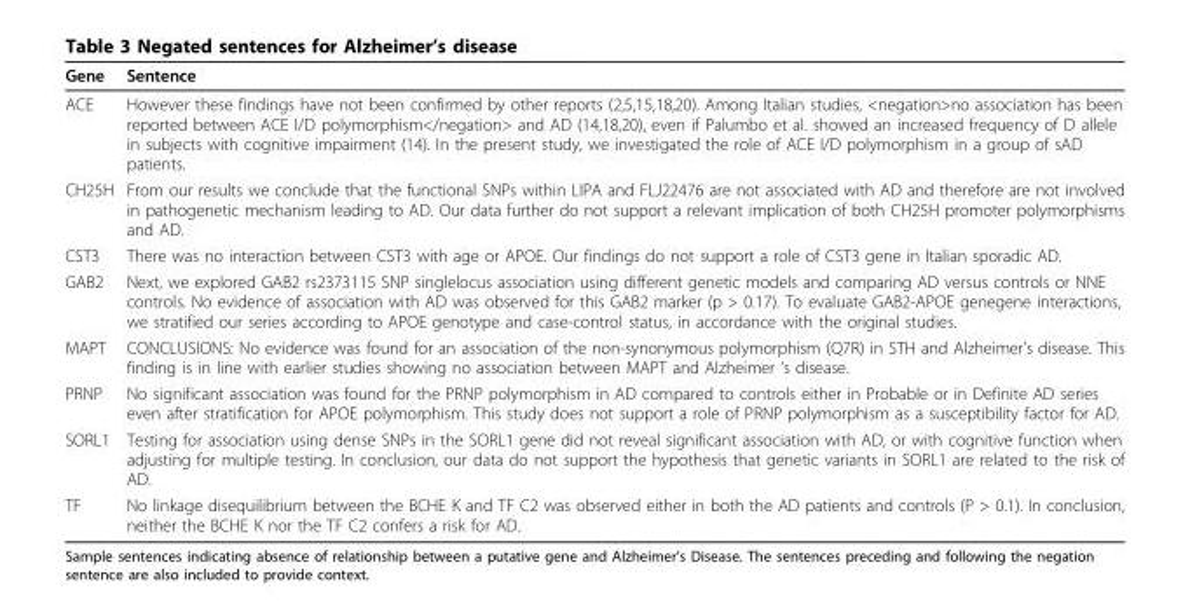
<table><thead><tr><td>Gene</td><td>Sentence</td></tr></thead><tbody><tr><td>ACE</td><td>However these findings have not been confirmed by other reports (2,5,15,18,20). Among Italian studies, &lt;negation&gt;no association has been reported between ACE I/D polymorphism&lt;/negation&gt; and AD (14,18,20), even if Palumbo et al. showed an increased frequency of D allele in subjects with cognitive impairment (14). In the present study, we investigated the role of ACE I/D polymorphism in a group of sAD patients.</td></tr><tr><td>CH25H</td><td>From our results we conclude that the functional SNPs within LIPA and FLJ22476 are not associated with AD and therefore are not involved in pathogenetic mechanism leading to AD. Our data further do not support a relevant implication of both CH25H promoter polymorphisms and AD.</td></tr><tr><td>CST3</td><td>There was no interaction between CST3 with age or APOE. Our findings do not support a role of CST3 gene in Italian sporadic AD.</td></tr><tr><td>GAB2</td><td>Next, we explored GAB2 rs2373115 SNP singlelocus association using different genetic models and comparing AD versus controls or NNE controls. No evidence of association with AD was observed for this GAB2 marker (p &gt; 0.17). To evaluate GAB2-APOE genegene interactions, we stratified our series according to APOE genotype and case-control status, in accordance with the original studies.</td></tr><tr><td>MAPT</td><td>CONCLUSIONS: No evidence was found for an association of the non-synonymous polymorphism (Q7R) in STH and Alzheimer’s disease. This finding is in line with earlier studies showing no association between MAPT and Alzheimer ‘s disease.</td></tr><tr><td>PRNP</td><td>No significant association was found for the PRNP polymorphism in AD compared to controls either in Probable or in Definite AD series even after stratification for APOE polymorphism. This study does not support a role of PRNP polymorphism as a susceptibility factor for AD.</td></tr><tr><td>SORL1</td><td>Testing for association using dense SNPs in the SORL1 gene did not reveal significant association with AD, or with cognitive function when adjusting for multiple testing. In conclusion, our data do not support the hypothesis that genetic variants in SORL1 are related to the risk of AD.</td></tr><tr><td>TF</td><td>No linkage disequilibrium between the BCHE K and TF C2 was observed either in both the AD patients and controls (P &gt; 0.1). In conclusion, neither the BCHE K nor the TF C2 confers a risk for AD.</td></tr></tbody></table>